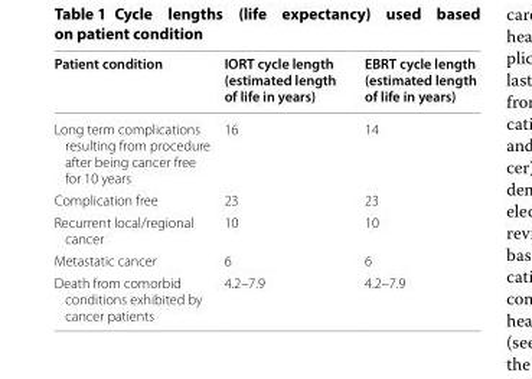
<table><thead><tr><td>Patient condition</td><td>IORT cycle length (estimated length of life in years)</td><td>EBRT cycle length (estimated length of life in years)</td></tr></thead><tbody><tr><td>Long term complications resulting from procedure after being cancer free for 10 years</td><td>16</td><td>14</td></tr><tr><td>Complication free</td><td>23</td><td>23</td></tr><tr><td>Recurrent local/regional cancer</td><td>10</td><td>10</td></tr><tr><td>Metastatic cancer</td><td>6</td><td>6</td></tr><tr><td>Death from comorbid conditions exhibited by cancer patients</td><td>4.2–7.9</td><td>4.2–7.9</td></tr></tbody></table>